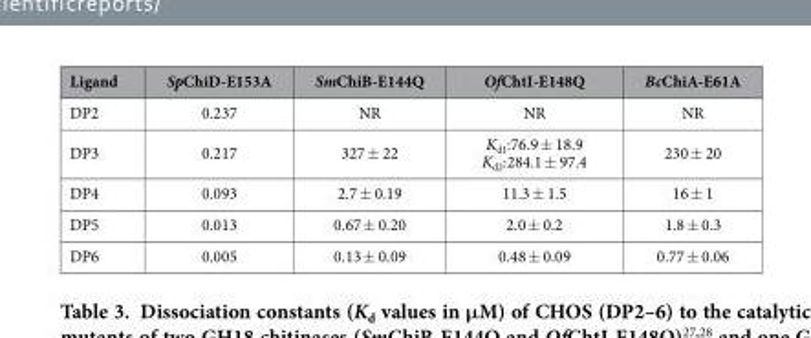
<table><thead><tr><td>Ligand</td><td>SpChiD-E153A</td><td>SmChiB-E144Q</td><td>OfChtI-E148Q</td><td>BcChiA-E61A</td></tr></thead><tbody><tr><td>DP2</td><td>0.237</td><td>NR</td><td>NR</td><td>NR</td></tr><tr><td>DP3</td><td>0.217</td><td>327 ± 22</td><td>K<sub>d1</sub>:76.9 ± 18.9 K<sub>d2</sub>:284.1 ± 97.4</td><td>230 ± 20</td></tr><tr><td>DP4</td><td>0.093</td><td>2.7 ± 0.19</td><td>11.3 ± 1.5</td><td>16 ± 1</td></tr><tr><td>DP5</td><td>0.013</td><td>0.67 ± 0.20</td><td>2.0 ± 0.2</td><td>1.8 ± 0.3</td></tr><tr><td>DP6</td><td>0.005</td><td>0.13 ± 0.09</td><td>0.48 ± 0.09</td><td>0.77 ± 0.06</td></tr></tbody></table>